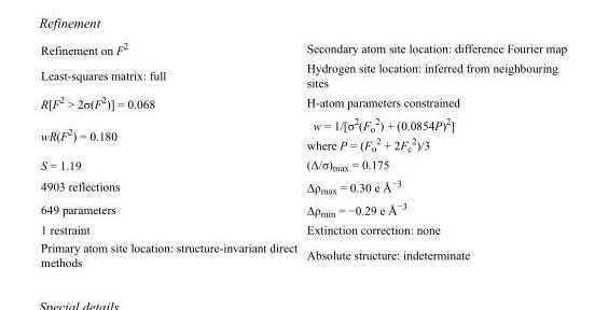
<table><tbody><tr><td>Refinement on F<sup>2</sup></td><td>Secondary atom site location: difference Fourier map</td></tr><tr><td>Least-squares matrix: full</td><td>Hydrogen site location: inferred from neighbouring sites</td></tr><tr><td>R[F<sup>2</sup> &gt; 2σ(F<sup>2</sup>)] = 0.068</td><td>H-atom parameters constrained</td></tr><tr><td>wR(F<sup>2</sup>) = 0.180</td><td>w = 1/[σ<sup>2</sup>(F<sub>o</sub> <sup>2</sup>) + (0.0854P)<sup>2</sup>] where P = (F<sub>o</sub> <sup>2</sup> + 2F<sub>c</sub> <sup>2</sup>)/3</td></tr><tr><td>S = 1.19</td><td>(Δ/σ)<sub>max</sub> = 0.175</td></tr><tr><td>4903 reflections</td><td>Δρ<sub>max</sub> = 0.30 e Å<sup>−3</sup></td></tr><tr><td>649 parameters</td><td>Δρ<sub>min</sub> = −0.29 e Å<sup>−3</sup></td></tr><tr><td>1 restraint</td><td>Extinction correction: none</td></tr><tr><td>Primary atom site location: structure-invariant direct methods</td><td>Absolute structure: indeterminate</td></tr></tbody></table>